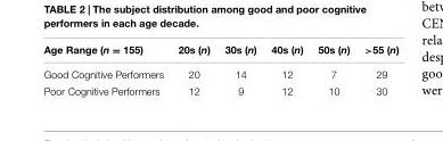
<table><thead><tr><td>Age Range (n = 155)</td><td>20s (n)</td><td>30s (n)</td><td>40s (n)</td><td>50s (n)</td><td>&gt;55 (n)</td></tr></thead><tbody><tr><td>Good Cognitive Performers</td><td>20</td><td>14</td><td>12</td><td>7</td><td>29</td></tr><tr><td>Poor Cognitive Performers</td><td>12</td><td>9</td><td>12</td><td>10</td><td>30</td></tr></tbody></table>